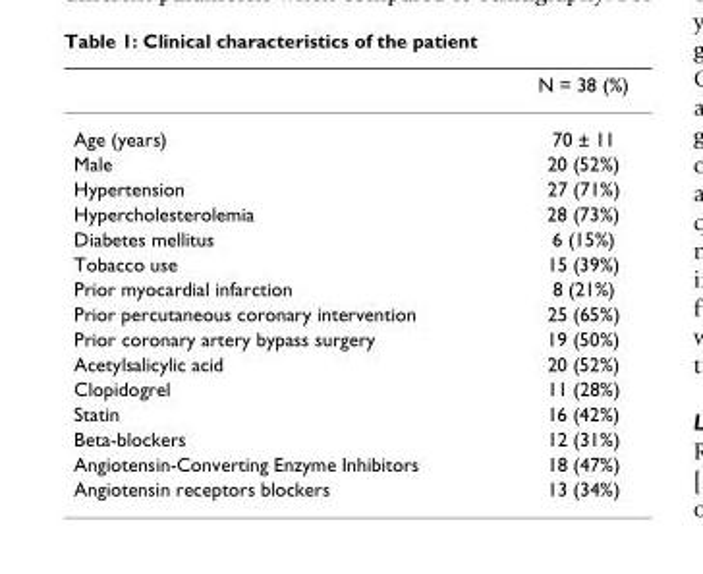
<table><thead><tr><td></td><td>N = 38 (%)</td></tr></thead><tbody><tr><td>Age (years)</td><td>70 ± 11</td></tr><tr><td>Male</td><td>20 (52%)</td></tr><tr><td>Hypertension</td><td>27 (71%)</td></tr><tr><td>Hypercholesterolemia</td><td>28 (73%)</td></tr><tr><td>Diabetes mellitus</td><td>6 (15%)</td></tr><tr><td>Tobacco use</td><td>15 (39%)</td></tr><tr><td>Prior myocardial infarction</td><td>8 (21%)</td></tr><tr><td>Prior percutaneous coronary intervention</td><td>25 (65%)</td></tr><tr><td>Prior coronary artery bypass surgery</td><td>19 (50%)</td></tr><tr><td>Acetylsalicylic acid</td><td>20 (52%)</td></tr><tr><td>Clopidogrel</td><td>11 (28%)</td></tr><tr><td>Statin</td><td>16 (42%)</td></tr><tr><td>Beta-blockers</td><td>12 (31%)</td></tr><tr><td>Angiotensin-Converting Enzyme Inhibitors</td><td>18 (47%)</td></tr><tr><td>Angiotensin receptors blockers</td><td>13 (34%)</td></tr></tbody></table>